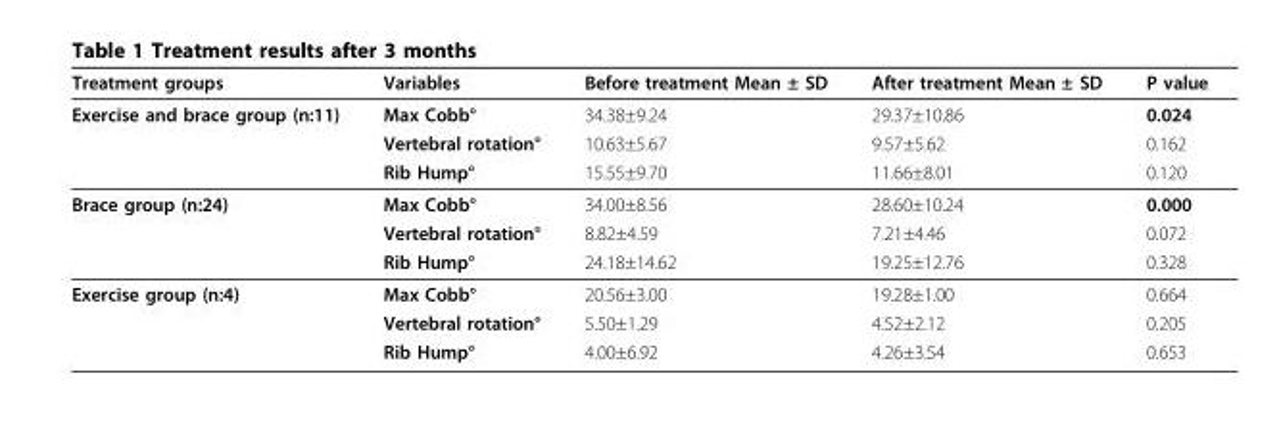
<table><thead><tr><td>Treatment groups</td><td>Variables</td><td>Before treatment Mean ± SD</td><td>After treatment Mean ± SD</td><td>P value</td></tr></thead><tbody><tr><td rowspan="3">Exercise and brace group (n:11)</td><td>Max Cobb°</td><td>34.38±9.24</td><td>29.37±10.86</td><td>0.024</td></tr><tr><td>Vertebral rotation°</td><td>10.63±5.67</td><td>9.57±5.62</td><td>0.162</td></tr><tr><td>Rib Hump°</td><td>15.55±9.70</td><td>11.66±8.01</td><td>0.120</td></tr><tr><td rowspan="3">Brace group (n:24)</td><td>Max Cobb°</td><td>34.00±8.56</td><td>28.60±10.24</td><td>0.000</td></tr><tr><td>Vertebral rotation°</td><td>8.82±4.59</td><td>7.21±4.46</td><td>0.072</td></tr><tr><td>Rib Hump°</td><td>24.18±14.62</td><td>19.25±12.76</td><td>0.328</td></tr><tr><td rowspan="3">Exercise group (n:4)</td><td>Max Cobb°</td><td>20.56±3.00</td><td>19.28±1.00</td><td>0.664</td></tr><tr><td>Vertebral rotation°</td><td>5.50±1.29</td><td>4.52±2.12</td><td>0.205</td></tr><tr><td>Rib Hump°</td><td>4.00±6.92</td><td>4.26±3.54</td><td>0.653</td></tr></tbody></table>